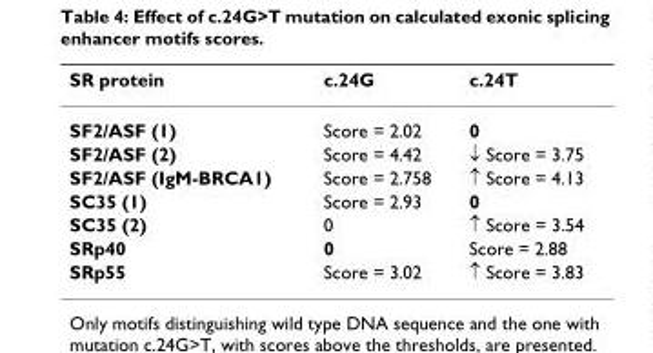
<table><thead><tr><td>SR protein</td><td>c.24G</td><td>c.24T</td></tr></thead><tbody><tr><td>SF2/ASF (1)</td><td>Score = 2.02</td><td>0</td></tr><tr><td>SF2/ASF (2)</td><td>Score = 4.42</td><td>↓ Score = 3.75</td></tr><tr><td>SF2/ASF (IgM-BRCA1)</td><td>Score = 2.758</td><td>↑ Score = 4.13</td></tr><tr><td>SC35 (1)</td><td>Score = 2.93</td><td>0</td></tr><tr><td>SC35 (2)</td><td>0</td><td>↑ Score = 3.54</td></tr><tr><td>SRp40</td><td>0</td><td>Score = 2.88</td></tr><tr><td>SRp55</td><td>Score = 3.02</td><td>↑ Score = 3.83</td></tr></tbody></table>